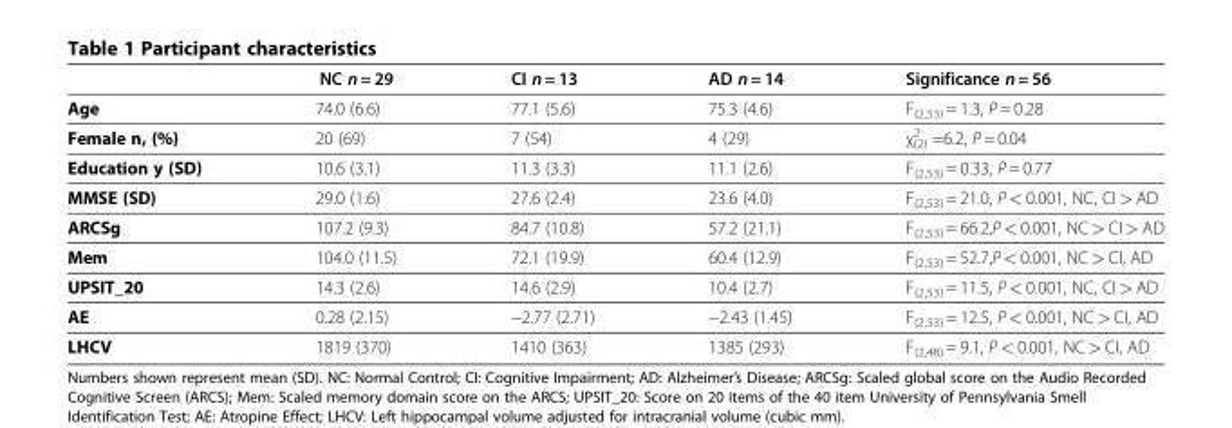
<table><thead><tr><td></td><td>NC n = 29</td><td>CI n = 13</td><td>AD n = 14</td><td>Significance n = 56</td></tr></thead><tbody><tr><td>Age</td><td>74.0 (6.6)</td><td>77.1 (5.6)</td><td>75.3 (4.6)</td><td>F<sub>(2,53)</sub> = 1.3, P = 0.28</td></tr><tr><td>Female n, (%)</td><td>20 (69)</td><td>7 (54)</td><td>4 (29)</td><td>χ<sub>(2)</sub> <sup>2</sup> =6.2, P = 0.04</td></tr><tr><td>Education y (SD)</td><td>10.6 (3.1)</td><td>11.3 (3.3)</td><td>11.1 (2.6)</td><td>F<sub>(2,53)</sub> = 0.33, P = 0.77</td></tr><tr><td>MMSE (SD)</td><td>29.0 (1.6)</td><td>27.6 (2.4)</td><td>23.6 (4.0)</td><td>F<sub>(2,53)</sub> = 21.0, P &lt; 0.001, NC, CI &gt; AD</td></tr><tr><td>ARCSg</td><td>107.2 (9.3)</td><td>84.7 (10.8)</td><td>57.2 (21.1)</td><td>F<sub>(2,53)</sub> = 66.2,P &lt; 0.001, NC &gt; CI &gt; AD</td></tr><tr><td>Mem</td><td>104.0 (11.5)</td><td>72.1 (19.9)</td><td>60.4 (12.9)</td><td>F<sub>(2,53)</sub> = 52.7,P &lt; 0.001, NC &gt; CI, AD</td></tr><tr><td>UPSIT_20</td><td>14.3 (2.6)</td><td>14.6 (2.9)</td><td>10.4 (2.7)</td><td>F<sub>(2,53)</sub> = 11.5, P &lt; 0.001, NC, CI &gt; AD</td></tr><tr><td>AE</td><td>0.28 (2.15)</td><td>−2.77 (2.71)</td><td>−2.43 (1.45)</td><td>F<sub>(2,53)</sub> = 12.5, P &lt; 0.001, NC &gt; CI, AD</td></tr><tr><td>LHCV</td><td>1819 (370)</td><td>1410 (363)</td><td>1385 (293)</td><td>F<sub>(2,48)</sub> = 9.1, P &lt; 0.001, NC &gt; CI, AD</td></tr></tbody></table>